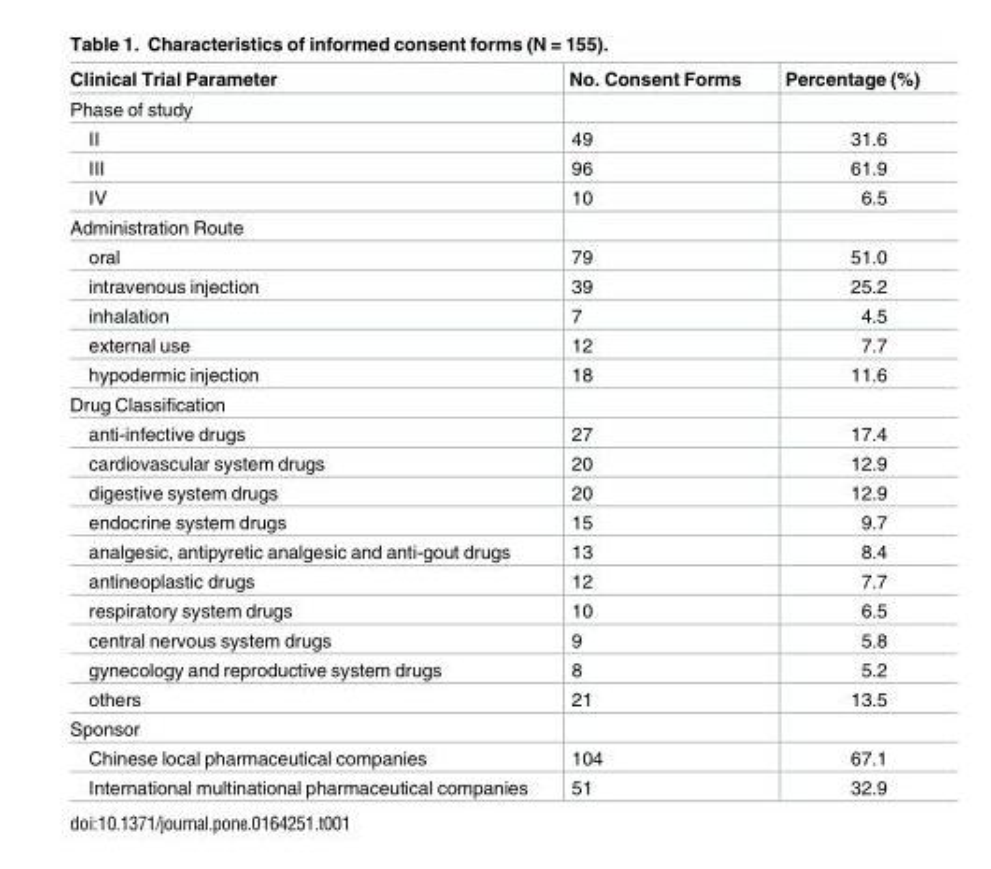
<table><thead><tr><td>Clinical Trial Parameter</td><td>No. Consent Forms</td><td>Percentage (%)</td></tr></thead><tbody><tr><td colspan="3">Phase of study</td></tr><tr><td>II</td><td>49</td><td>31.6</td></tr><tr><td>III</td><td>96</td><td>61.9</td></tr><tr><td>IV</td><td>10</td><td>6.5</td></tr><tr><td colspan="3">Administration Route</td></tr><tr><td>oral</td><td>79</td><td>51.0</td></tr><tr><td>intravenous injection</td><td>39</td><td>25.2</td></tr><tr><td>inhalation</td><td>7</td><td>4.5</td></tr><tr><td>external use</td><td>12</td><td>7.7</td></tr><tr><td>hypodermic injection</td><td>18</td><td>11.6</td></tr><tr><td colspan="3">Drug Classification</td></tr><tr><td>anti-infective drugs</td><td>27</td><td>17.4</td></tr><tr><td>cardiovascular system drugs</td><td>20</td><td>12.9</td></tr><tr><td>digestive system drugs</td><td>20</td><td>12.9</td></tr><tr><td>endocrine system drugs</td><td>15</td><td>9.7</td></tr><tr><td>analgesic, antipyretic analgesic and anti-gout drugs</td><td>13</td><td>8.4</td></tr><tr><td>antineoplastic drugs</td><td>12</td><td>7.7</td></tr><tr><td>respiratory system drugs</td><td>10</td><td>6.5</td></tr><tr><td>central nervous system drugs</td><td>9</td><td>5.8</td></tr><tr><td>gynecology and reproductive system drugs</td><td>8</td><td>5.2</td></tr><tr><td>others</td><td>21</td><td>13.5</td></tr><tr><td colspan="3">Sponsor</td></tr><tr><td>Chinese local pharmaceutical companies</td><td>104</td><td>67.1</td></tr><tr><td>International multinational pharmaceutical companies</td><td>51</td><td>32.9</td></tr></tbody></table>